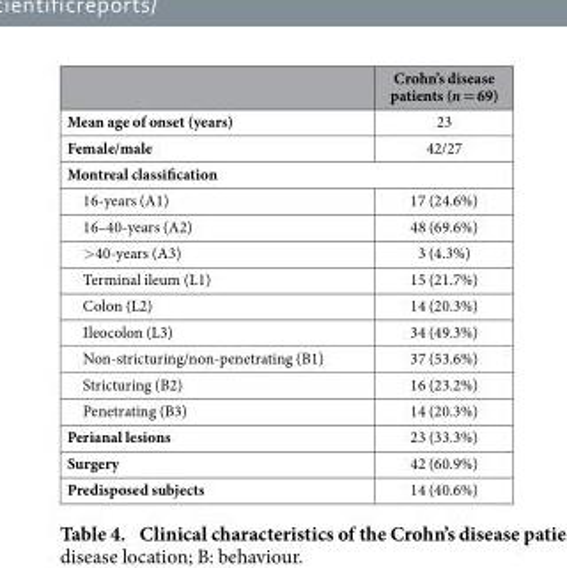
<table><thead><tr><td></td><td>Crohn’s disease patients (n = 69)</td></tr></thead><tbody><tr><td>Mean age of onset (years)</td><td>23</td></tr><tr><td>Female/male</td><td>42/27</td></tr><tr><td colspan="2">Montreal classification</td></tr><tr><td>16-years (A1)</td><td>17 (24.6%)</td></tr><tr><td>16–40-years (A2)</td><td>48 (69.6%)</td></tr><tr><td>&gt; 40-years (A3)</td><td>3 (4.3%)</td></tr><tr><td>Terminal ileum (L1)</td><td>15 (21.7%)</td></tr><tr><td>Colon (L2)</td><td>14 (20.3%)</td></tr><tr><td>Ileocolon (L3)</td><td>34 (49.3%)</td></tr><tr><td>Non-stricturing/non-penetrating (B1)</td><td>37 (53.6%)</td></tr><tr><td>Stricturing (B2)</td><td>16 (23.2%)</td></tr><tr><td>Penetrating (B3)</td><td>14 (20.3%)</td></tr><tr><td>Perianal lesions</td><td>23 (33.3%)</td></tr><tr><td>Surgery</td><td>42 (60.9%)</td></tr><tr><td>Predisposed subjects</td><td>14 (40.6%)</td></tr></tbody></table>